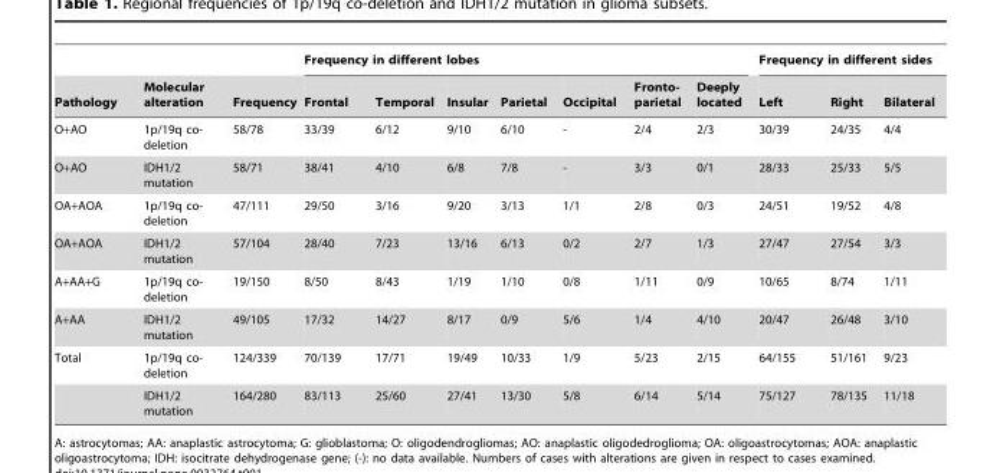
<table><thead><tr><td rowspan="2">Pathology</td><td rowspan="2">Molecular alteration</td><td rowspan="2">Frequency</td><td colspan="7">Frequency in different lobes</td><td colspan="3">Frequency in different sides</td></tr><tr><td>Frontal</td><td>Temporal</td><td>Insular</td><td>Parietal</td><td>Occipital</td><td>Fronto- parietal</td><td>Deeply located</td><td>Left</td><td>Right</td><td>Bilateral</td></tr></thead><tbody><tr><td>O+AO</td><td>1p/19q co- deletion</td><td>58/78</td><td>33/39</td><td>6/12</td><td>9/10</td><td>6/10</td><td>-</td><td>2/4</td><td>2/3</td><td>30/39</td><td>24/35</td><td>4/4</td></tr><tr><td>O+AO</td><td>IDH1/2 mutation</td><td>58/71</td><td>38/41</td><td>4/10</td><td>6/8</td><td>7/8</td><td>-</td><td>3/3</td><td>0/1</td><td>28/33</td><td>25/33</td><td>5/5</td></tr><tr><td>OA+AOA</td><td>1p/19q co- deletion</td><td>47/111</td><td>29/50</td><td>3/16</td><td>9/20</td><td>3/13</td><td>1/1</td><td>2/8</td><td>0/3</td><td>24/51</td><td>19/52</td><td>4/8</td></tr><tr><td>OA+AOA</td><td>IDH1/2 mutation</td><td>57/104</td><td>28/40</td><td>7/23</td><td>13/16</td><td>6/13</td><td>0/2</td><td>2/7</td><td>1/3</td><td>27/47</td><td>27/54</td><td>3/3</td></tr><tr><td>A+AA+G</td><td>1p/19q co- deletion</td><td>19/150</td><td>8/50</td><td>8/43</td><td>1/19</td><td>1/10</td><td>0/8</td><td>1/11</td><td>0/9</td><td>10/65</td><td>8/74</td><td>1/11</td></tr><tr><td>A+AA</td><td>IDH1/2 mutation</td><td>49/105</td><td>17/32</td><td>14/27</td><td>8/17</td><td>0/9</td><td>5/6</td><td>1/4</td><td>4/10</td><td>20/47</td><td>26/48</td><td>3/10</td></tr><tr><td rowspan="2">Total</td><td>1p/19q co- deletion</td><td>124/339</td><td>70/139</td><td>17/71</td><td>19/49</td><td>10/33</td><td>1/9</td><td>5/23</td><td>2/15</td><td>64/155</td><td>51/161</td><td>9/23</td></tr><tr><td>IDH1/2 mutation</td><td>164/280</td><td>83/113</td><td>25/60</td><td>27/41</td><td>13/30</td><td>5/8</td><td>6/14</td><td>5/14</td><td>75/127</td><td>78/135</td><td>11/18</td></tr></tbody></table>